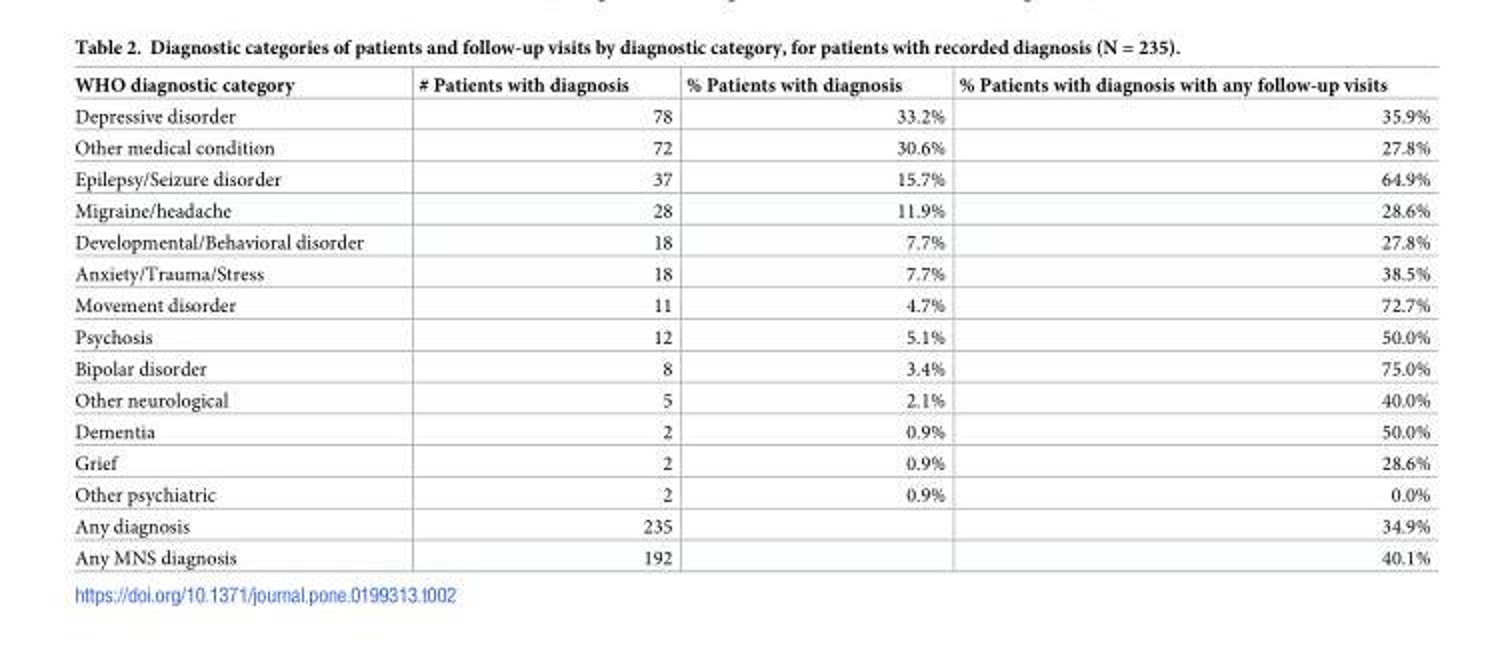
<table><thead><tr><td>WHO diagnostic category</td><td># Patients with diagnosis</td><td>% Patients with diagnosis</td><td>% Patients with diagnosis with any follow-up visits</td></tr></thead><tbody><tr><td>Depressive disorder</td><td>78</td><td>33.2%</td><td>35.9%</td></tr><tr><td>Other medical condition</td><td>72</td><td>30.6%</td><td>27.8%</td></tr><tr><td>Epilepsy/Seizure disorder</td><td>37</td><td>15.7%</td><td>64.9%</td></tr><tr><td>Migraine/headache</td><td>28</td><td>11.9%</td><td>28.6%</td></tr><tr><td>Developmental/Behavioral disorder</td><td>18</td><td>7.7%</td><td>27.8%</td></tr><tr><td>Anxiety/Trauma/Stress</td><td>18</td><td>7.7%</td><td>38.5%</td></tr><tr><td>Movement disorder</td><td>11</td><td>4.7%</td><td>72.7%</td></tr><tr><td>Psychosis</td><td>12</td><td>5.1%</td><td>50.0%</td></tr><tr><td>Bipolar disorder</td><td>8</td><td>3.4%</td><td>75.0%</td></tr><tr><td>Other neurological</td><td>5</td><td>2.1%</td><td>40.0%</td></tr><tr><td>Dementia</td><td>2</td><td>0.9%</td><td>50.0%</td></tr><tr><td>Grief</td><td>2</td><td>0.9%</td><td>28.6%</td></tr><tr><td>Other psychiatric</td><td>2</td><td>0.9%</td><td>0.0%</td></tr><tr><td>Any diagnosis</td><td>235</td><td></td><td>34.9%</td></tr><tr><td>Any MNS diagnosis</td><td>192</td><td></td><td>40.1%</td></tr></tbody></table>